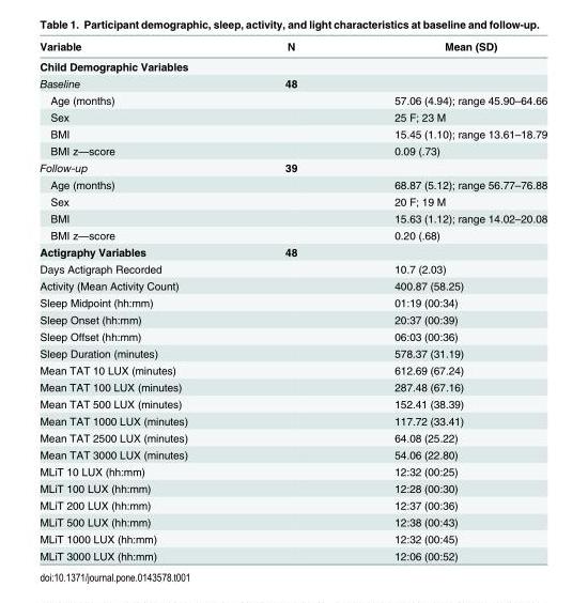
<table><thead><tr><td>Variable</td><td>N</td><td>Mean (SD)</td></tr></thead><tbody><tr><td colspan="3">Child Demographic Variables</td></tr><tr><td>Baseline</td><td>48</td><td></td></tr><tr><td>Age (months)</td><td></td><td>57.06 (4.94); range 45.90–64.66</td></tr><tr><td>Sex</td><td></td><td>25 F; 23 M</td></tr><tr><td>BMI</td><td></td><td>15.45 (1.10); range 13.61–18.79</td></tr><tr><td>BMI z—score</td><td></td><td>0.09 (.73)</td></tr><tr><td>Follow-up</td><td>39</td><td></td></tr><tr><td>Age (months)</td><td></td><td>68.87 (5.12); range 56.77–76.88</td></tr><tr><td>Sex</td><td></td><td>20 F; 19 M</td></tr><tr><td>BMI</td><td></td><td>15.63 (1.12); range 14.02–20.08</td></tr><tr><td>BMI z—score</td><td></td><td>0.20 (.68)</td></tr><tr><td>Actigraphy Variables</td><td>48</td><td></td></tr><tr><td>Days Actigraph Recorded</td><td></td><td>10.7 (2.03)</td></tr><tr><td>Activity (Mean Activity Count)</td><td></td><td>400.87 (58.25)</td></tr><tr><td>Sleep Midpoint (hh:mm)</td><td></td><td>01:19 (00:34)</td></tr><tr><td>Sleep Onset (hh:mm)</td><td></td><td>20:37 (00:39)</td></tr><tr><td>Sleep Offset (hh:mm)</td><td></td><td>06:03 (00:36)</td></tr><tr><td>Sleep Duration (minutes)</td><td></td><td>578.37 (31.19)</td></tr><tr><td>Mean TAT 10 LUX (minutes)</td><td></td><td>612.69 (67.24)</td></tr><tr><td>Mean TAT 100 LUX (minutes)</td><td></td><td>287.48 (67.16)</td></tr><tr><td>Mean TAT 500 LUX (minutes)</td><td></td><td>152.41 (38.39)</td></tr><tr><td>Mean TAT 1000 LUX (minutes)</td><td></td><td>117.72 (33.41)</td></tr><tr><td>Mean TAT 2500 LUX (minutes)</td><td></td><td>64.08 (25.22)</td></tr><tr><td>Mean TAT 3000 LUX (minutes)</td><td></td><td>54.06 (22.80)</td></tr><tr><td>MLiT 10 LUX (hh:mm)</td><td></td><td>12:32 (00:25)</td></tr><tr><td>MLiT 100 LUX (hh:mm)</td><td></td><td>12:28 (00:30)</td></tr><tr><td>MLiT 200 LUX (hh:mm)</td><td></td><td>12:37 (00:36)</td></tr><tr><td>MLiT 500 LUX (hh:mm)</td><td></td><td>12:38 (00:43)</td></tr><tr><td>MLiT 1000 LUX (hh:mm)</td><td></td><td>12:32 (00:45)</td></tr><tr><td>MLiT 3000 LUX (hh:mm)</td><td></td><td>12:06 (00:52)</td></tr></tbody></table>